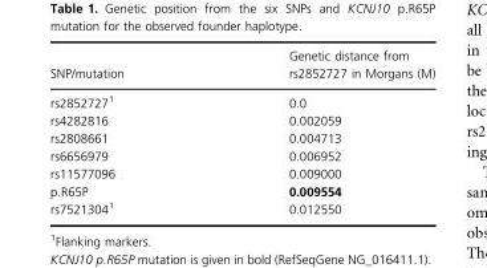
<table><thead><tr><td>SNP/mutation</td><td>Genetic distance from rs2852727 in Morgans (M)</td></tr></thead><tbody><tr><td>rs28527271</td><td>0.0</td></tr><tr><td>rs4282816</td><td>0.002059</td></tr><tr><td>rs2808661</td><td>0.004713</td></tr><tr><td>rs6656979</td><td>0.006952</td></tr><tr><td>rs11577096</td><td>0.009000</td></tr><tr><td>p.R65P</td><td>0.009554</td></tr><tr><td>rs75213041</td><td>0.012550</td></tr></tbody></table>